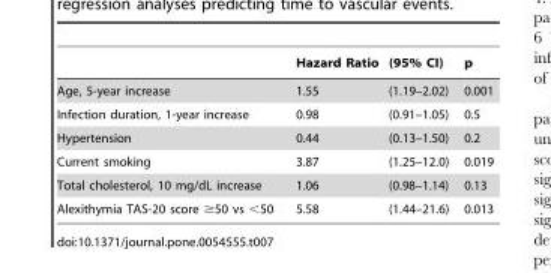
<table><thead><tr><td></td><td>Hazard Ratio</td><td>(95% CI)</td><td>p</td></tr></thead><tbody><tr><td>Age, 5-year increase</td><td>1.55</td><td>(1.19–2.02)</td><td>0.001</td></tr><tr><td>Infection duration, 1-year increase</td><td>0.98</td><td>(0.91–1.05)</td><td>0.5</td></tr><tr><td>Hypertension</td><td>0.44</td><td>(0.13–1.50)</td><td>0.2</td></tr><tr><td>Current smoking</td><td>3.87</td><td>(1.25–12.0)</td><td>0.019</td></tr><tr><td>Total cholesterol, 10 mg/dL increase</td><td>1.06</td><td>(0.98–1.14)</td><td>0.13</td></tr><tr><td>Alexithymia TAS-20 score ≥50 vs &lt;50</td><td>5.58</td><td>(1.44–21.6)</td><td>0.013</td></tr></tbody></table>